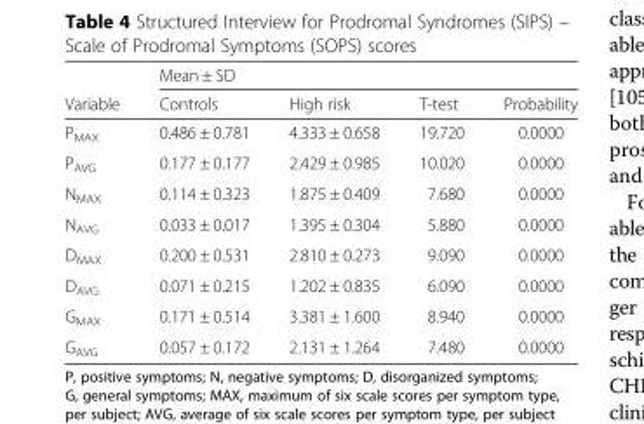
<table><thead><tr><td rowspan="2">Variable</td><td colspan="4">Mean ± SD</td></tr><tr><td>Controls</td><td>High risk</td><td>T-test</td><td>Probability</td></tr></thead><tbody><tr><td>P<sub>MAX</sub></td><td>0.486 ± 0.781</td><td>4.333 ± 0.658</td><td>19.720</td><td>0.0000</td></tr><tr><td>P<sub>AVG</sub></td><td>0.177 ± 0.177</td><td>2.429 ± 0.985</td><td>10.020</td><td>0.0000</td></tr><tr><td>N<sub>MAX</sub></td><td>0.114 ± 0.323</td><td>1.875 ± 0.409</td><td>7.680</td><td>0.0000</td></tr><tr><td>N<sub>AVG</sub></td><td>0.033 ± 0.017</td><td>1.395 ± 0.304</td><td>5.880</td><td>0.0000</td></tr><tr><td>D<sub>MAX</sub></td><td>0.200 ± 0.531</td><td>2.810 ± 0.273</td><td>9.090</td><td>0.0000</td></tr><tr><td>D<sub>AVG</sub></td><td>0.071 ± 0.215</td><td>1.202 ± 0.835</td><td>6.090</td><td>0.0000</td></tr><tr><td>G<sub>MAX</sub></td><td>0.171 ± 0.514</td><td>3.381 ± 1.600</td><td>8.940</td><td>0.0000</td></tr><tr><td>G<sub>AVG</sub></td><td>0.057 ± 0.172</td><td>2.131 ± 1.264</td><td>7.480</td><td>0.0000</td></tr></tbody></table>